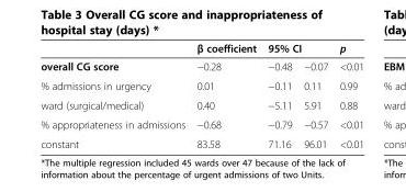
<table><thead><tr><td rowspan="2">overall CG score</td><td rowspan="2">β coefficient −0.28</td><td colspan="2">95% CI</td><td rowspan="2">p &lt;0.01</td></tr><tr><td>−0.48</td><td>−0.07</td></tr></thead><tbody><tr><td>% admissions in urgency</td><td>0.01</td><td>−0.11</td><td>0.11</td><td>0.99</td></tr><tr><td>ward (surgical/medical)</td><td>0.40</td><td>−5.11</td><td>5.91</td><td>0.88</td></tr><tr><td>% appropriateness in admissions</td><td>−0.68</td><td>−0.79</td><td>−0.57</td><td>&lt;0.01</td></tr><tr><td>constant</td><td>83.58</td><td>71.16</td><td>96.01</td><td>&lt;0.01</td></tr></tbody></table>